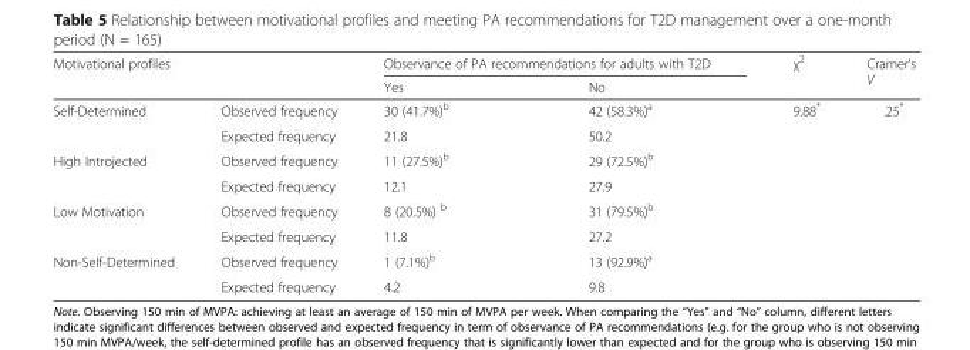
<table><thead><tr><td rowspan="2">Motivational profiles</td><td rowspan="2"></td><td colspan="2">Observance of PA recommendations for adults with T2D</td><td rowspan="2">χ<sup>2</sup></td><td rowspan="2">Cramer’s V</td></tr><tr><td>Yes</td><td>No</td></tr></thead><tbody><tr><td rowspan="2">Self-Determined</td><td>Observed frequency</td><td>30 (41.7%)<sup>b</sup></td><td>42 (58.3%)<sup>a</sup></td><td>9.88*</td><td>.25*</td></tr><tr><td>Expected frequency</td><td>21.8</td><td>50.2</td><td></td><td></td></tr><tr><td rowspan="2">High Introjected</td><td>Observed frequency</td><td>11 (27.5%)<sup>b</sup></td><td>29 (72.5%)<sup>b</sup></td><td></td><td></td></tr><tr><td>Expected frequency</td><td>12.1</td><td>27.9</td><td></td><td></td></tr><tr><td rowspan="2">Low Motivation</td><td>Observed frequency</td><td>8 (20.5%) <sup>b</sup></td><td>31 (79.5%)<sup>b</sup></td><td></td><td></td></tr><tr><td>Expected frequency</td><td>11.8</td><td>27.2</td><td></td><td></td></tr><tr><td rowspan="2">Non-Self-Determined</td><td>Observed frequency</td><td>1 (7.1%)<sup>b</sup></td><td>13 (92.9%)<sup>a</sup></td><td></td><td></td></tr><tr><td>Expected frequency</td><td>4.2</td><td>9.8</td><td></td><td></td></tr></tbody></table>